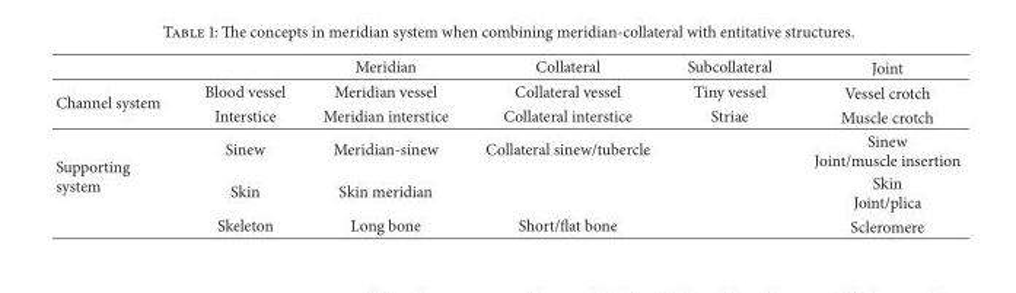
<table><thead><tr><td></td><td></td><td>Meridian</td><td>Collateral</td><td>Subcollateral</td><td>Joint</td></tr></thead><tbody><tr><td rowspan="2">Channel system</td><td>Blood vessel</td><td>Meridian vessel</td><td>Collateral vessel</td><td>Tiny vessel</td><td>Vessel crotch</td></tr><tr><td>Interstice</td><td>Meridian interstice</td><td>Collateral interstice</td><td>Striae</td><td>Muscle crotch</td></tr><tr><td rowspan="3">Supporting system</td><td>Sinew</td><td>Meridian-sinew</td><td>Collateral sinew/tubercle</td><td></td><td>Sinew Joint/muscle insertion</td></tr><tr><td>Skin</td><td>Skin meridian</td><td></td><td></td><td>Skin Joint/plica</td></tr><tr><td>Skeleton</td><td>Long bone</td><td>Short/flat bone</td><td></td><td>Scleromere</td></tr></tbody></table>